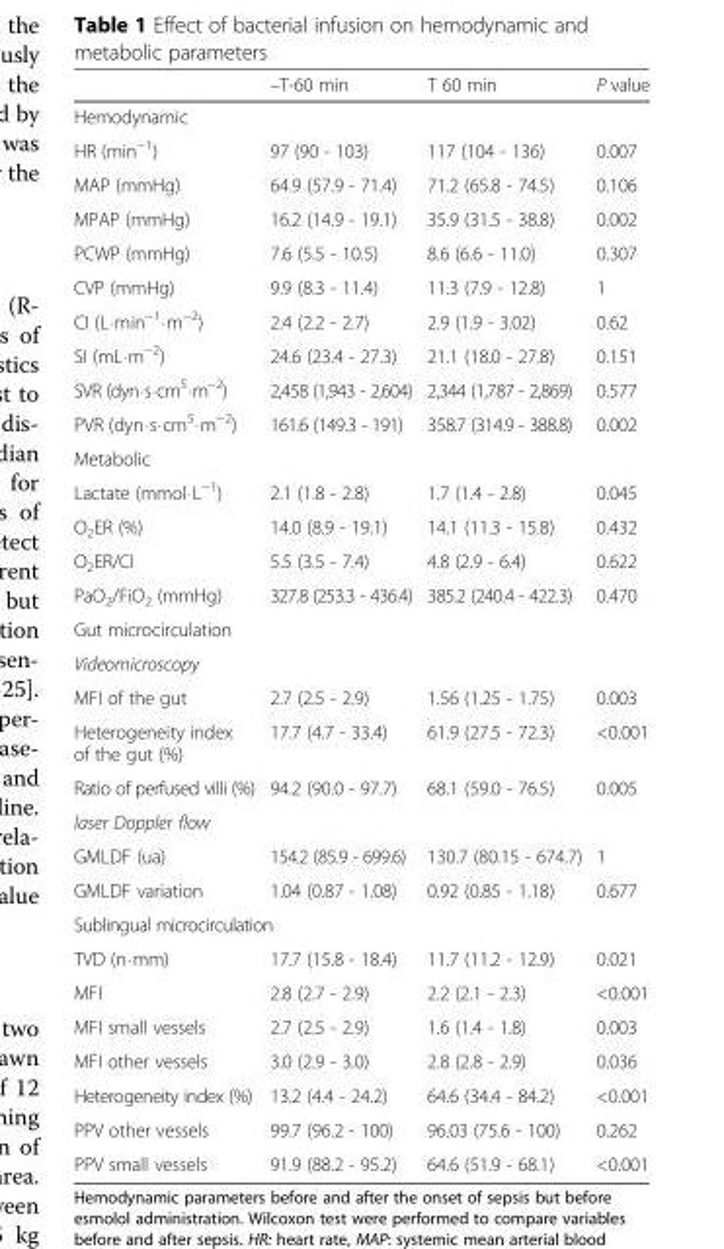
<table><thead><tr><td></td><td>–T-60 min</td><td>T 60 min</td><td>P value</td></tr></thead><tbody><tr><td colspan="4">Hemodynamic</td></tr><tr><td>HR (min<sup>−1</sup>)</td><td>97 (90 - 103)</td><td>117 (104 - 136)</td><td>0.007</td></tr><tr><td>MAP (mmHg)</td><td>64.9 (57.9 - 71.4)</td><td>71.2 (65.8 - 74.5)</td><td>0.106</td></tr><tr><td>MPAP (mmHg)</td><td>16.2 (14.9 - 19.1)</td><td>35.9 (31.5 - 38.8)</td><td>0.002</td></tr><tr><td>PCWP (mmHg)</td><td>7.6 (5.5 - 10.5)</td><td>8.6 (6.6 - 11.0)</td><td>0.307</td></tr><tr><td>CVP (mmHg)</td><td>9.9 (8.3 - 11.4)</td><td>11.3 (7.9 - 12.8)</td><td>1</td></tr><tr><td>CI (L⋅min<sup>−1</sup>⋅m<sup>−2</sup>)</td><td>2.4 (2.2 - 2.7)</td><td>2.9 (1.9 - 3.02)</td><td>0.62</td></tr><tr><td>SI (mL⋅m<sup>−2</sup>)</td><td>24.6 (23.4 - 27.3)</td><td>21.1 (18.0 - 27.8)</td><td>0.151</td></tr><tr><td>SVR (dyn⋅s⋅cm<sup>5</sup>⋅m<sup>−2</sup>)</td><td>2,458 (1,943 - 2,604)</td><td>2,344 (1,787 - 2,869)</td><td>0.577</td></tr><tr><td>PVR (dyn⋅s⋅cm<sup>5</sup>⋅m<sup>−2</sup>)</td><td>161.6 (149.3 - 191)</td><td>358.7 (314.9 - 388.8)</td><td>0.002</td></tr><tr><td colspan="4">Metabolic</td></tr><tr><td>Lactate (mmol⋅L<sup>−1</sup>)</td><td>2.1 (1.8 - 2.8)</td><td>1.7 (1.4 - 2.8)</td><td>0.045</td></tr><tr><td>O<sub>2</sub>ER (%)</td><td>14.0 (8.9 - 19.1)</td><td>14.1 (11.3 - 15.8)</td><td>0.432</td></tr><tr><td>O<sub>2</sub>ER/CI</td><td>5.5 (3.5 - 7.4)</td><td>4.8 (2.9 - 6.4)</td><td>0.622</td></tr><tr><td>PaO<sub>2</sub>/FiO<sub>2</sub> (mmHg)</td><td>327.8 (253.3 - 436.4)</td><td>385.2 (240.4 - 422.3)</td><td>0.470</td></tr><tr><td colspan="4">Gut microcirculation</td></tr><tr><td colspan="4">Videomicroscopy</td></tr><tr><td>MFI of the gut</td><td>2.7 (2.5 - 2.9)</td><td>1.56 (1.25 - 1.75)</td><td>0.003</td></tr><tr><td>Heterogeneity index of the gut (%)</td><td>17.7 (4.7 - 33.4)</td><td>61.9 (27.5 - 72.3)</td><td>&lt;0.001</td></tr><tr><td>Ratio of perfused villi (%)</td><td>94.2 (90.0 - 97.7)</td><td>68.1 (59.0 - 76.5)</td><td>0.005</td></tr><tr><td colspan="4">laser Doppler flow</td></tr><tr><td>GMLDF (ua)</td><td>154.2 (85.9 - 699.6)</td><td>130.7 (80.15 - 674.7)</td><td>1</td></tr><tr><td>GMLDF variation</td><td>1.04 (0.87 - 1.08)</td><td>0.92 (0.85 - 1.18)</td><td>0.677</td></tr><tr><td colspan="4">Sublingual microcirculation</td></tr><tr><td>TVD (n⋅mm)</td><td>17.7 (15.8 - 18.4)</td><td>11.7 (11.2 - 12.9)</td><td>0.021</td></tr><tr><td>MFI</td><td>2.8 (2.7 - 2.9)</td><td>2.2 (2.1 - 2.3)</td><td>&lt;0.001</td></tr><tr><td>MFI small vessels</td><td>2.7 (2.5 - 2.9)</td><td>1.6 (1.4 - 1.8)</td><td>0.003</td></tr><tr><td>MFI other vessels</td><td>3.0 (2.9 - 3.0)</td><td>2.8 (2.8 - 2.9)</td><td>0.036</td></tr><tr><td>Heterogeneity index (%)</td><td>13.2 (4.4 - 24.2)</td><td>64.6 (34.4 - 84.2)</td><td>&lt;0.001</td></tr><tr><td>PPV other vessels</td><td>99.7 (96.2 - 100)</td><td>96.03 (75.6 - 100)</td><td>0.262</td></tr><tr><td>PPV small vessels</td><td>91.9 (88.2 - 95.2)</td><td>64.6 (51.9 - 68.1)</td><td>&lt;0.001</td></tr></tbody></table>